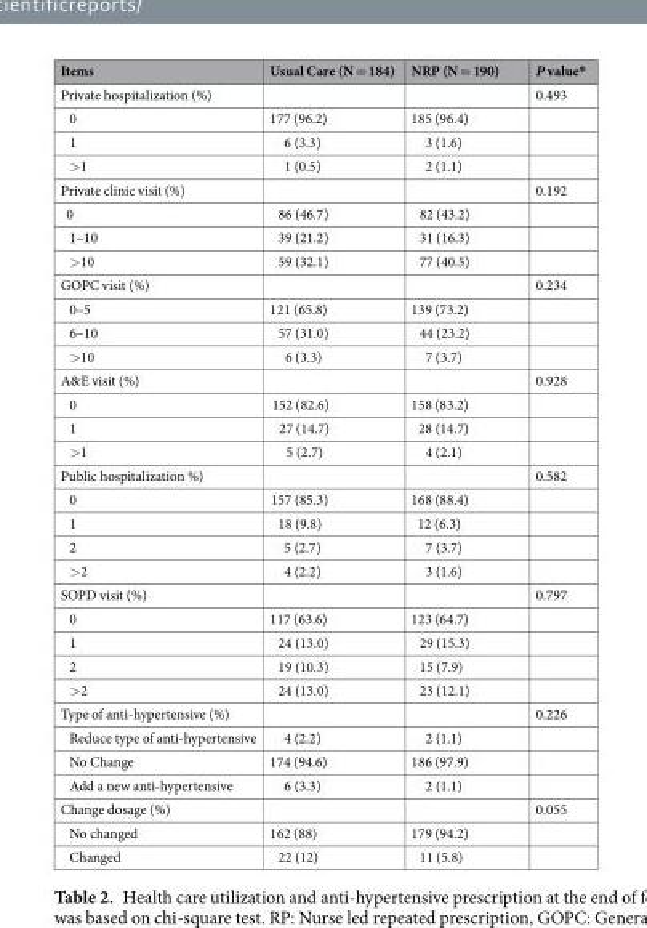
<table><thead><tr><td>Items</td><td>Usual Care (N = 184)</td><td>NRP (N = 190)</td><td>P value*</td></tr></thead><tbody><tr><td>Private hospitalization (%)</td><td></td><td></td><td>0.493</td></tr><tr><td>0</td><td>177 (96.2)</td><td>185 (96.4)</td><td></td></tr><tr><td>1</td><td>6 (3.3)</td><td>3 (1.6)</td><td></td></tr><tr><td>&gt;1</td><td>1 (0.5)</td><td>2 (1.1)</td><td></td></tr><tr><td>Private clinic visit (%)</td><td></td><td></td><td>0.192</td></tr><tr><td>0</td><td>86 (46.7)</td><td>82 (43.2)</td><td></td></tr><tr><td>1–10</td><td>39 (21.2)</td><td>31 (16.3)</td><td></td></tr><tr><td>&gt;10</td><td>59 (32.1)</td><td>77 (40.5)</td><td></td></tr><tr><td>GOPC visit (%)</td><td></td><td></td><td>0.234</td></tr><tr><td>0–5</td><td>121 (65.8)</td><td>139 (73.2)</td><td></td></tr><tr><td>6–10</td><td>57 (31.0)</td><td>44 (23.2)</td><td></td></tr><tr><td>&gt;10</td><td>6 (3.3)</td><td>7 (3.7)</td><td></td></tr><tr><td>A&amp;E visit (%)</td><td></td><td></td><td>0.928</td></tr><tr><td>0</td><td>152 (82.6)</td><td>158 (83.2)</td><td></td></tr><tr><td>1</td><td>27 (14.7)</td><td>28 (14.7)</td><td></td></tr><tr><td>&gt;1</td><td>5 (2.7)</td><td>4 (2.1)</td><td></td></tr><tr><td>Public hospitalization %)</td><td></td><td></td><td>0.582</td></tr><tr><td>0</td><td>157 (85.3)</td><td>168 (88.4)</td><td></td></tr><tr><td>1</td><td>18 (9.8)</td><td>12 (6.3)</td><td></td></tr><tr><td>2</td><td>5 (2.7)</td><td>7 (3.7)</td><td></td></tr><tr><td>&gt;2</td><td>4 (2.2)</td><td>3 (1.6)</td><td></td></tr><tr><td>SOPD visit (%)</td><td></td><td></td><td>0.797</td></tr><tr><td>0</td><td>117 (63.6)</td><td>123 (64.7)</td><td></td></tr><tr><td>1</td><td>24 (13.0)</td><td>29 (15.3)</td><td></td></tr><tr><td>2</td><td>19 (10.3)</td><td>15 (7.9)</td><td></td></tr><tr><td>&gt;2</td><td>24 (13.0)</td><td>23 (12.1)</td><td></td></tr><tr><td>Type of anti-hypertensive (%)</td><td></td><td></td><td>0.226</td></tr><tr><td>Reduce type of anti-hypertensive</td><td>4 (2.2)</td><td>2 (1.1)</td><td></td></tr><tr><td>No Change</td><td>174 (94.6)</td><td>186 (97.9)</td><td></td></tr><tr><td>Add a new anti-hypertensive</td><td>6 (3.3)</td><td>2 (1.1)</td><td></td></tr><tr><td>Change dosage (%)</td><td></td><td></td><td>0.055</td></tr><tr><td>No changed</td><td>162 (88)</td><td>179 (94.2)</td><td></td></tr><tr><td>Changed</td><td>22 (12)</td><td>11 (5.8)</td><td></td></tr></tbody></table>